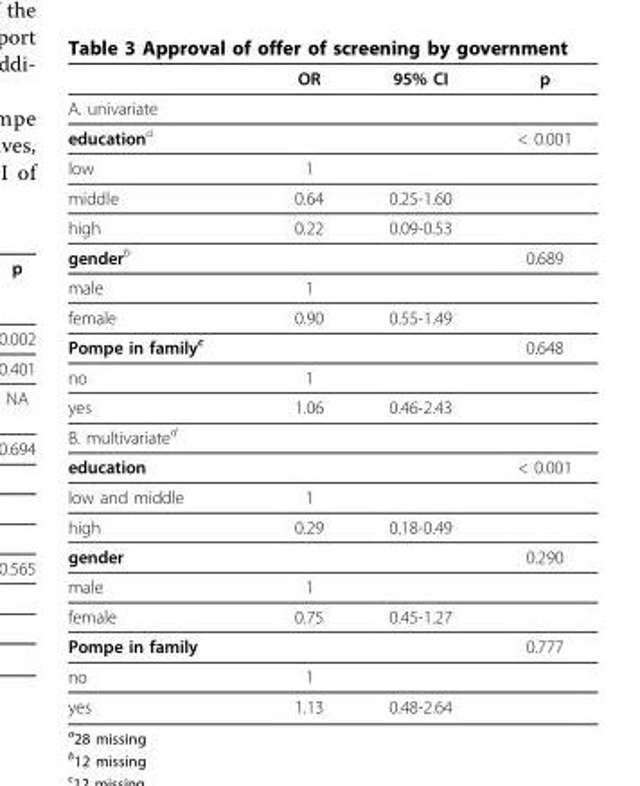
<table><thead><tr><td></td><td>OR</td><td>95% CI</td><td>p</td></tr></thead><tbody><tr><td colspan="4">A. univariate</td></tr><tr><td>education<sup>a</sup></td><td></td><td></td><td>&lt; 0.001</td></tr><tr><td>low</td><td>1</td><td></td><td></td></tr><tr><td>middle</td><td>0.64</td><td>0.25-1.60</td><td></td></tr><tr><td>high</td><td>0.22</td><td>0.09-0.53</td><td></td></tr><tr><td>gender<sup>b</sup></td><td></td><td></td><td>0.689</td></tr><tr><td>male</td><td>1</td><td></td><td></td></tr><tr><td>female</td><td>0.90</td><td>0.55-1.49</td><td></td></tr><tr><td>Pompe in family<sup>c</sup></td><td></td><td></td><td>0.648</td></tr><tr><td>no</td><td>1</td><td></td><td></td></tr><tr><td>yes</td><td>1.06</td><td>0.46-2.43</td><td></td></tr><tr><td colspan="4">B. multivariate<sup>d</sup></td></tr><tr><td>education</td><td></td><td></td><td>&lt; 0.001</td></tr><tr><td>low and middle</td><td>1</td><td></td><td></td></tr><tr><td>high</td><td>0.29</td><td>0.18-0.49</td><td></td></tr><tr><td>gender</td><td></td><td></td><td>0.290</td></tr><tr><td>male</td><td>1</td><td></td><td></td></tr><tr><td>female</td><td>0.75</td><td>0.45-1.27</td><td></td></tr><tr><td>Pompe in family</td><td></td><td></td><td>0.777</td></tr><tr><td>no</td><td>1</td><td></td><td></td></tr><tr><td>yes</td><td>1.13</td><td>0.48-2.64</td><td></td></tr></tbody></table>